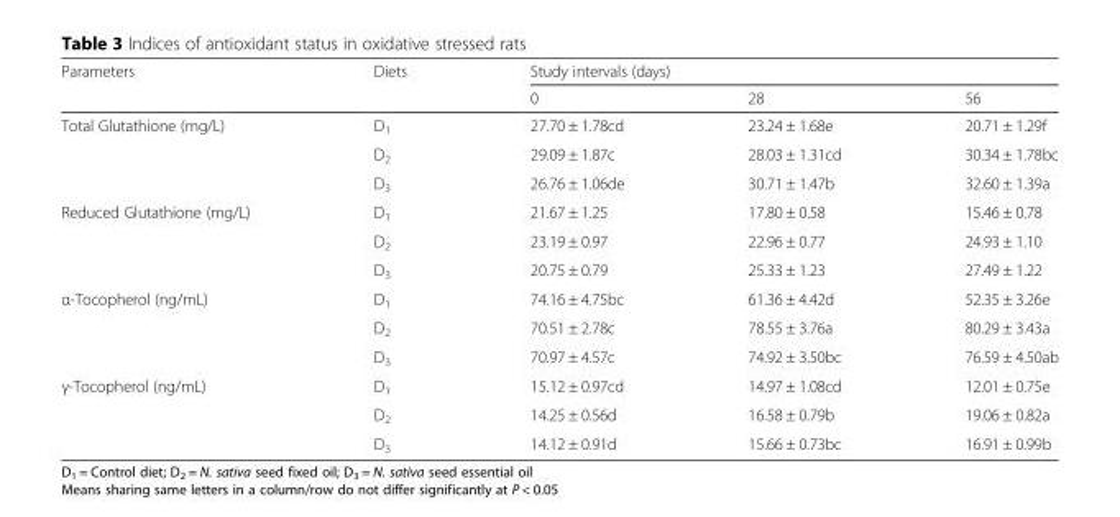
<table><thead><tr><td rowspan="2">Parameters</td><td rowspan="2">Diets</td><td colspan="3">Study intervals (days)</td></tr><tr><td>0</td><td>28</td><td>56</td></tr></thead><tbody><tr><td rowspan="3">Total Glutathione (mg/L)</td><td>D<sub>1</sub></td><td>27.70 ± 1.78cd</td><td>23.24 ± 1.68e</td><td>20.71 ± 1.29f</td></tr><tr><td>D<sub>2</sub></td><td>29.09 ± 1.87c</td><td>28.03 ± 1.31cd</td><td>30.34 ± 1.78bc</td></tr><tr><td>D<sub>3</sub></td><td>26.76 ± 1.06de</td><td>30.71 ± 1.47b</td><td>32.60 ± 1.39a</td></tr><tr><td rowspan="3">Reduced Glutathione (mg/L)</td><td>D<sub>1</sub></td><td>21.67 ± 1.25</td><td>17.80 ± 0.58</td><td>15.46 ± 0.78</td></tr><tr><td>D<sub>2</sub></td><td>23.19 ± 0.97</td><td>22.96 ± 0.77</td><td>24.93 ± 1.10</td></tr><tr><td>D<sub>3</sub></td><td>20.75 ± 0.79</td><td>25.33 ± 1.23</td><td>27.49 ± 1.22</td></tr><tr><td rowspan="3">α-Tocopherol (ng/mL)</td><td>D<sub>1</sub></td><td>74.16 ± 4.75bc</td><td>61.36 ± 4.42d</td><td>52.35 ± 3.26e</td></tr><tr><td>D<sub>2</sub></td><td>70.51 ± 2.78c</td><td>78.55 ± 3.76a</td><td>80.29 ± 3.43a</td></tr><tr><td>D<sub>3</sub></td><td>70.97 ± 4.57c</td><td>74.92 ± 3.50bc</td><td>76.59 ± 4.50ab</td></tr><tr><td rowspan="3">γ-Tocopherol (ng/mL)</td><td>D<sub>1</sub></td><td>15.12 ± 0.97cd</td><td>14.97 ± 1.08cd</td><td>12.01 ± 0.75e</td></tr><tr><td>D<sub>2</sub></td><td>14.25 ± 0.56d</td><td>16.58 ± 0.79b</td><td>19.06 ± 0.82a</td></tr><tr><td>D<sub>3</sub></td><td>14.12 ± 0.91d</td><td>15.66 ± 0.73bc</td><td>16.91 ± 0.99b</td></tr></tbody></table>